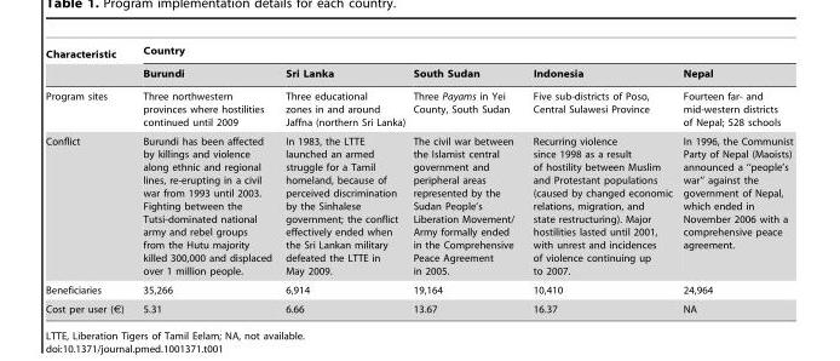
<table><thead><tr><td rowspan="2">Characteristic</td><td colspan="5">Country</td></tr><tr><td>Burundi</td><td>Sri Lanka</td><td>South Sudan</td><td>Indonesia</td><td>Nepal</td></tr></thead><tbody><tr><td>Program sites</td><td>Three northwestern provinces where hostilities continued until 2009</td><td>Three educational zones in and around Jaffna (northern Sri Lanka)</td><td>Three Payams in Yei County, South Sudan</td><td>Five sub-districts of Poso, Central Sulawesi Province</td><td>Fourteen far- and mid-western districts of Nepal; 528 schools</td></tr><tr><td>Conflict</td><td>Burundi has been affected by killings and violence along ethnic and regional lines, re-erupting in a civil war from 1993 until 2003. Fighting between the Tutsi-dominated national army and rebel groups from the Hutu majority killed 300,000 and displaced over 1 million people.</td><td>In 1983, the LTTE launched an armed struggle for a Tamil homeland, because of perceived discrimination by the Sinhalese government; the conflict effectively ended when the Sri Lankan military defeated the LTTE in May 2009.</td><td>The civil war between the Islamist central government and peripheral areas represented by the Sudan People’s Liberation Movement/ Army formally ended in the Comprehensive Peace Agreement in 2005.</td><td>Recurring violence since 1998 as a result of hostility between Muslim and Protestant populations (caused by changed economic relations, migration, and state restructuring). Major hostilities lasted until 2001, with unrest and incidences of violence continuing up to 2007.</td><td>In 1996, the Communist Party of Nepal (Maoists) announced a ‘‘people’s war’’ against the government of Nepal, which ended in November 2006 with a comprehensive peace agreement.</td></tr><tr><td>Beneficiaries</td><td>35,266</td><td>6,914</td><td>19,164</td><td>10,410</td><td>24,964</td></tr><tr><td>Cost per user (€)</td><td>5.31</td><td>6.66</td><td>13.67</td><td>16.37</td><td>NA</td></tr></tbody></table>